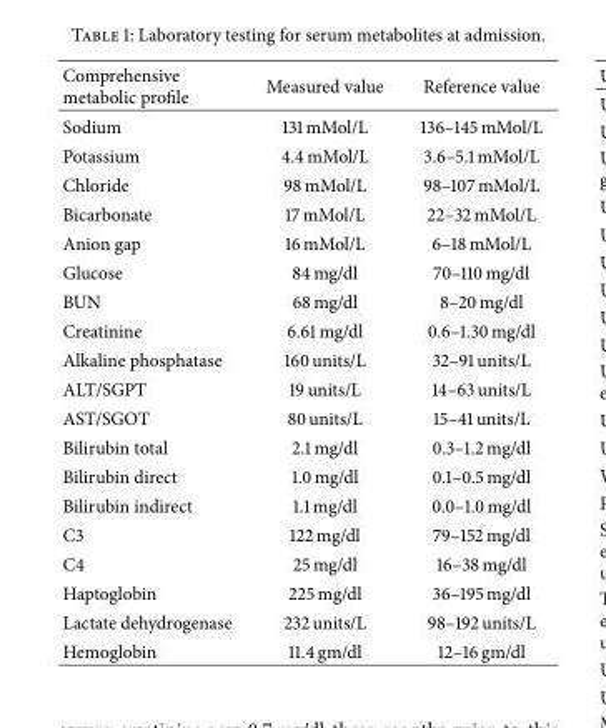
<table><thead><tr><td>Comprehensive metabolic profile</td><td>Measured value</td><td>Reference value</td></tr></thead><tbody><tr><td>Sodium</td><td>131 mMol/L</td><td>136–145 mMol/L</td></tr><tr><td>Potassium</td><td>4.4 mMol/L</td><td>3.6–5.1 mMol/L</td></tr><tr><td>Chloride</td><td>98 mMol/L</td><td>98–107 mMol/L</td></tr><tr><td>Bicarbonate</td><td>17 mMol/L</td><td>22–32 mMol/L</td></tr><tr><td>Anion gap</td><td>16 mMol/L</td><td>6–18 mMol/L</td></tr><tr><td>Glucose</td><td>84 mg/dl</td><td>70–110 mg/dl</td></tr><tr><td>BUN</td><td>68 mg/dl</td><td>8–20 mg/dl</td></tr><tr><td>Creatinine</td><td>6.61 mg/dl</td><td>0.6–1.30 mg/dl</td></tr><tr><td>Alkaline phosphatase</td><td>160 units/L</td><td>32–91 units/L</td></tr><tr><td>ALT/SGPT</td><td>19 units/L</td><td>14–63 units/L</td></tr><tr><td>AST/SGOT</td><td>80 units/L</td><td>15–41 units/L</td></tr><tr><td>Bilirubin total</td><td>2.1 mg/dl</td><td>0.3–1.2 mg/dl</td></tr><tr><td>Bilirubin direct</td><td>1.0 mg/dl</td><td>0.1–0.5 mg/dl</td></tr><tr><td>Bilirubin indirect</td><td>1.1 mg/dl</td><td>0.0–1.0 mg/dl</td></tr><tr><td>C3</td><td>122 mg/dl</td><td>79–152 mg/dl</td></tr><tr><td>C4</td><td>25 mg/dl</td><td>16–38 mg/dl</td></tr><tr><td>Haptoglobin</td><td>225 mg/dl</td><td>36–195 mg/dl</td></tr><tr><td>Lactate dehydrogenase</td><td>232 units/L</td><td>98–192 units/L</td></tr><tr><td>Hemoglobin</td><td>11.4 gm/dl</td><td>12–16 gm/dl</td></tr></tbody></table>